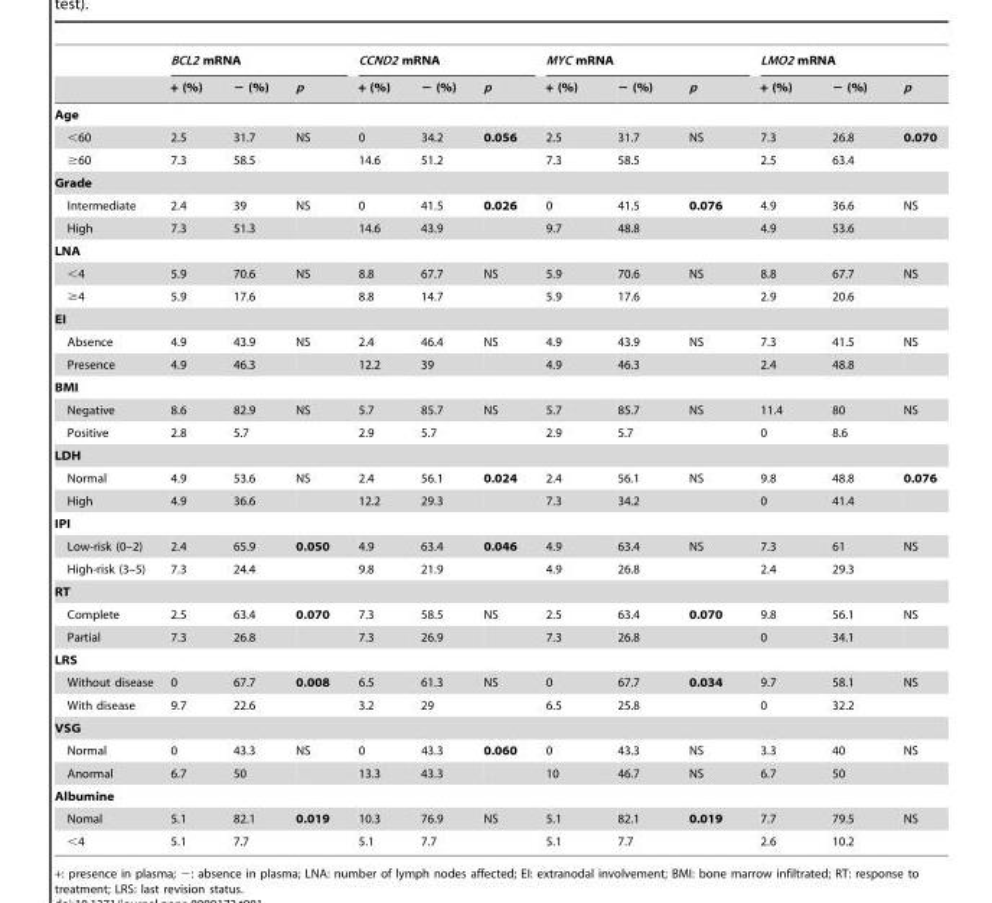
<table><thead><tr><td rowspan="2"></td><td colspan="3">BCL2 mRNA</td><td colspan="3">CCND2 mRNA</td><td colspan="3">MYC mRNA</td><td colspan="3">LMO2 mRNA</td></tr><tr><td>+ (%)</td><td>− (%)</td><td>p</td><td>+ (%)</td><td>− (%)</td><td>p</td><td>+ (%)</td><td>− (%)</td><td>p</td><td>+ (%)</td><td>− (%)</td><td>p</td></tr></thead><tbody><tr><td colspan="13">Age</td></tr><tr><td>&lt;60</td><td>2.5</td><td>31.7</td><td>NS</td><td>0</td><td>34.2</td><td>0.056</td><td>2.5</td><td>31.7</td><td>NS</td><td>7.3</td><td>26.8</td><td>0.070</td></tr><tr><td>≥60</td><td>7.3</td><td>58.5</td><td></td><td>14.6</td><td>51.2</td><td></td><td>7.3</td><td>58.5</td><td></td><td>2.5</td><td>63.4</td><td></td></tr><tr><td colspan="13">Grade</td></tr><tr><td>Intermediate</td><td>2.4</td><td>39</td><td>NS</td><td>0</td><td>41.5</td><td>0.026</td><td>0</td><td>41.5</td><td>0.076</td><td>4.9</td><td>36.6</td><td>NS</td></tr><tr><td>High</td><td>7.3</td><td>51.3</td><td></td><td>14.6</td><td>43.9</td><td></td><td>9.7</td><td>48.8</td><td></td><td>4.9</td><td>53.6</td><td></td></tr><tr><td colspan="13">LNA</td></tr><tr><td>&lt;4</td><td>5.9</td><td>70.6</td><td>NS</td><td>8.8</td><td>67.7</td><td>NS</td><td>5.9</td><td>70.6</td><td>NS</td><td>8.8</td><td>67.7</td><td>NS</td></tr><tr><td>≥4</td><td>5.9</td><td>17.6</td><td></td><td>8.8</td><td>14.7</td><td></td><td>5.9</td><td>17.6</td><td></td><td>2.9</td><td>20.6</td><td></td></tr><tr><td colspan="13">EI</td></tr><tr><td>Absence</td><td>4.9</td><td>43.9</td><td>NS</td><td>2.4</td><td>46.4</td><td>NS</td><td>4.9</td><td>43.9</td><td>NS</td><td>7.3</td><td>41.5</td><td>NS</td></tr><tr><td>Presence</td><td>4.9</td><td>46.3</td><td></td><td>12.2</td><td>39</td><td></td><td>4.9</td><td>46.3</td><td></td><td>2.4</td><td>48.8</td><td></td></tr><tr><td colspan="13">BMI</td></tr><tr><td>Negative</td><td>8.6</td><td>82.9</td><td>NS</td><td>5.7</td><td>85.7</td><td>NS</td><td>5.7</td><td>85.7</td><td>NS</td><td>11.4</td><td>80</td><td>NS</td></tr><tr><td>Positive</td><td>2.8</td><td>5.7</td><td></td><td>2.9</td><td>5.7</td><td></td><td>2.9</td><td>5.7</td><td></td><td>0</td><td>8.6</td><td></td></tr><tr><td colspan="13">LDH</td></tr><tr><td>Normal</td><td>4.9</td><td>53.6</td><td>NS</td><td>2.4</td><td>56.1</td><td>0.024</td><td>2.4</td><td>56.1</td><td>NS</td><td>9.8</td><td>48.8</td><td>0.076</td></tr><tr><td>High</td><td>4.9</td><td>36.6</td><td></td><td>12.2</td><td>29.3</td><td></td><td>7.3</td><td>34.2</td><td></td><td>0</td><td>41.4</td><td></td></tr><tr><td colspan="13">IPI</td></tr><tr><td>Low-risk (0–2)</td><td>2.4</td><td>65.9</td><td>0.050</td><td>4.9</td><td>63.4</td><td>0.046</td><td>4.9</td><td>63.4</td><td>NS</td><td>7.3</td><td>61</td><td>NS</td></tr><tr><td>High-risk (3–5)</td><td>7.3</td><td>24.4</td><td></td><td>9.8</td><td>21.9</td><td></td><td>4.9</td><td>26.8</td><td></td><td>2.4</td><td>29.3</td><td></td></tr><tr><td colspan="13">RT</td></tr><tr><td>Complete</td><td>2.5</td><td>63.4</td><td>0.070</td><td>7.3</td><td>58.5</td><td>NS</td><td>2.5</td><td>63.4</td><td>0.070</td><td>9.8</td><td>56.1</td><td>NS</td></tr><tr><td>Partial</td><td>7.3</td><td>26.8</td><td></td><td>7.3</td><td>26.9</td><td></td><td>7.3</td><td>26.8</td><td></td><td>0</td><td>34.1</td><td></td></tr><tr><td colspan="13">LRS</td></tr><tr><td>Without disease</td><td>0</td><td>67.7</td><td>0.008</td><td>6.5</td><td>61.3</td><td>NS</td><td>0</td><td>67.7</td><td>0.034</td><td>9.7</td><td>58.1</td><td>NS</td></tr><tr><td>With disease</td><td>9.7</td><td>22.6</td><td></td><td>3.2</td><td>29</td><td></td><td>6.5</td><td>25.8</td><td></td><td>0</td><td>32.2</td><td></td></tr><tr><td colspan="13">VSG</td></tr><tr><td>Normal</td><td>0</td><td>43.3</td><td>NS</td><td>0</td><td>43.3</td><td>0.060</td><td>0</td><td>43.3</td><td>NS</td><td>3.3</td><td>40</td><td>NS</td></tr><tr><td>Anormal</td><td>6.7</td><td>50</td><td></td><td>13.3</td><td>43.3</td><td></td><td>10</td><td>46.7</td><td>NS</td><td>6.7</td><td>50</td><td></td></tr><tr><td colspan="13">Albumine</td></tr><tr><td>Nomal</td><td>5.1</td><td>82.1</td><td>0.019</td><td>10.3</td><td>76.9</td><td>NS</td><td>5.1</td><td>82.1</td><td>0.019</td><td>7.7</td><td>79.5</td><td>NS</td></tr><tr><td>&lt;4</td><td>5.1</td><td>7.7</td><td></td><td>5.1</td><td>7.7</td><td></td><td>5.1</td><td>7.7</td><td></td><td>2.6</td><td>10.2</td><td></td></tr></tbody></table>